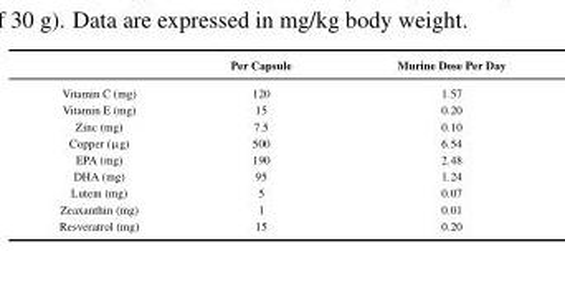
<table><thead><tr><td></td><td>Per Capsule</td><td>Murine Dose Per Day</td></tr></thead><tbody><tr><td>Vitamin C (mg)</td><td>120</td><td>1.57</td></tr><tr><td>Vitamin E (mg)</td><td>15</td><td>0.20</td></tr><tr><td>Zinc (mg)</td><td>7.5</td><td>0.10</td></tr><tr><td>Copper (µg)</td><td>500</td><td>6.54</td></tr><tr><td>EPA (mg)</td><td>190</td><td>2.48</td></tr><tr><td>DHA (mg)</td><td>95</td><td>1.24</td></tr><tr><td>Lutein (mg)</td><td>5</td><td>0.07</td></tr><tr><td>Zeaxanthin (mg)</td><td>1</td><td>0.01</td></tr><tr><td>Resveratrol (mg)</td><td>15</td><td>0.20</td></tr></tbody></table>